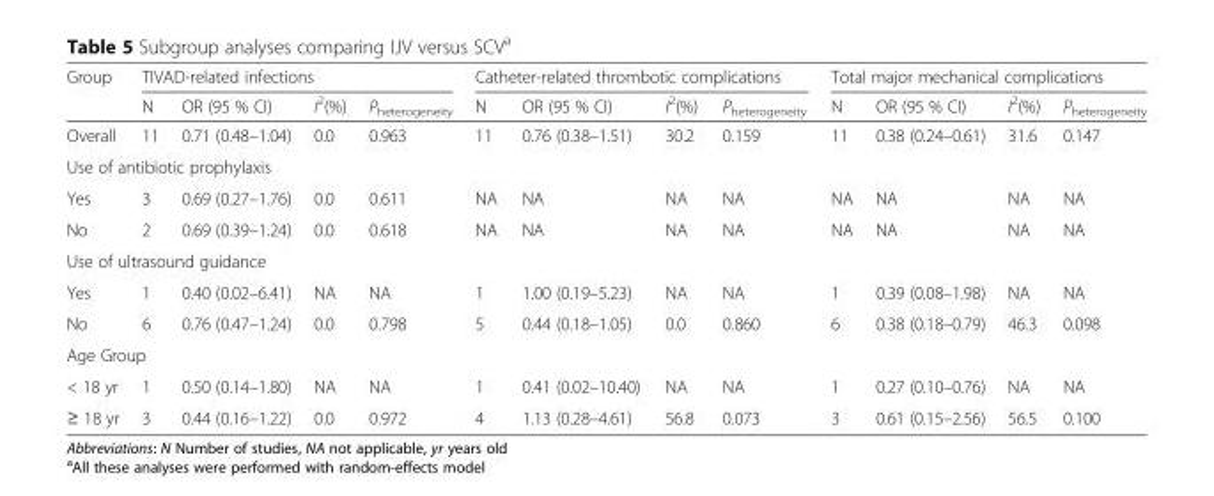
<table><thead><tr><td rowspan="2">Group</td><td colspan="4">TIVAD-related infections</td><td colspan="4">Catheter-related thrombotic complications</td><td colspan="4">Total major mechanical complications</td></tr><tr><td>N</td><td>OR (95 % CI)</td><td>I<sup>2</sup>(%)</td><td>P<sub>heterogeneity</sub></td><td>N</td><td>OR (95 % CI)</td><td>I<sup>2</sup>(%)</td><td>P<sub>heterogeneity</sub></td><td>N</td><td>OR (95 % CI)</td><td>I<sup>2</sup>(%)</td><td>P<sub>heterogeneity</sub></td></tr></thead><tbody><tr><td>Overall</td><td>11</td><td>0.71 (0.48–1.04)</td><td>0.0</td><td>0.963</td><td>11</td><td>0.76 (0.38–1.51)</td><td>30.2</td><td>0.159</td><td>11</td><td>0.38 (0.24–0.61)</td><td>31.6</td><td>0.147</td></tr><tr><td colspan="13">Use of antibiotic prophylaxis</td></tr><tr><td>Yes</td><td>3</td><td>0.69 (0.27–1.76)</td><td>0.0</td><td>0.611</td><td>NA</td><td>NA</td><td>NA</td><td>NA</td><td>NA</td><td>NA</td><td>NA</td><td>NA</td></tr><tr><td>No</td><td>2</td><td>0.69 (0.39–1.24)</td><td>0.0</td><td>0.618</td><td>NA</td><td>NA</td><td>NA</td><td>NA</td><td>NA</td><td>NA</td><td>NA</td><td>NA</td></tr><tr><td colspan="13">Use of ultrasound guidance</td></tr><tr><td>Yes</td><td>1</td><td>0.40 (0.02–6.41)</td><td>NA</td><td>NA</td><td>1</td><td>1.00 (0.19–5.23)</td><td>NA</td><td>NA</td><td>1</td><td>0.39 (0.08–1.98)</td><td>NA</td><td>NA</td></tr><tr><td>No</td><td>6</td><td>0.76 (0.47–1.24)</td><td>0.0</td><td>0.798</td><td>5</td><td>0.44 (0.18–1.05)</td><td>0.0</td><td>0.860</td><td>6</td><td>0.38 (0.18–0.79)</td><td>46.3</td><td>0.098</td></tr><tr><td colspan="13">Age Group</td></tr><tr><td>&lt; 18 yr</td><td>1</td><td>0.50 (0.14–1.80)</td><td>NA</td><td>NA</td><td>1</td><td>0.41 (0.02–10.40)</td><td>NA</td><td>NA</td><td>1</td><td>0.27 (0.10–0.76)</td><td>NA</td><td>NA</td></tr><tr><td>≥ 18 yr</td><td>3</td><td>0.44 (0.16–1.22)</td><td>0.0</td><td>0.972</td><td>4</td><td>1.13 (0.28–4.61)</td><td>56.8</td><td>0.073</td><td>3</td><td>0.61 (0.15–2.56)</td><td>56.5</td><td>0.100</td></tr></tbody></table>